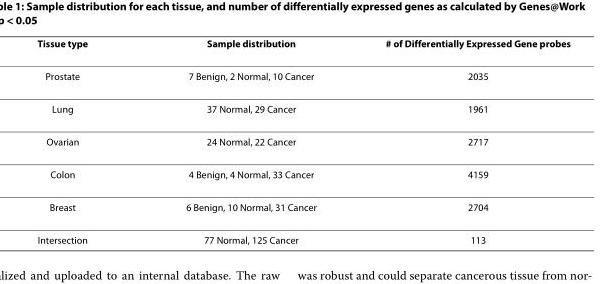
<table><thead><tr><td>Tissue type</td><td>Sample distribution</td><td># of Differentially Expressed Gene probes</td></tr></thead><tbody><tr><td>Prostate</td><td>7 Benign, 2 Normal, 10 Cancer</td><td>2035</td></tr><tr><td>Lung</td><td>37 Normal, 29 Cancer</td><td>1961</td></tr><tr><td>Ovarian</td><td>24 Normal, 22 Cancer</td><td>2717</td></tr><tr><td>Colon</td><td>4 Benign, 4 Normal, 33 Cancer</td><td>4159</td></tr><tr><td>Breast</td><td>6 Benign, 10 Normal, 31 Cancer</td><td>2704</td></tr><tr><td>Intersection</td><td>77 Normal, 125 Cancer</td><td>113</td></tr></tbody></table>